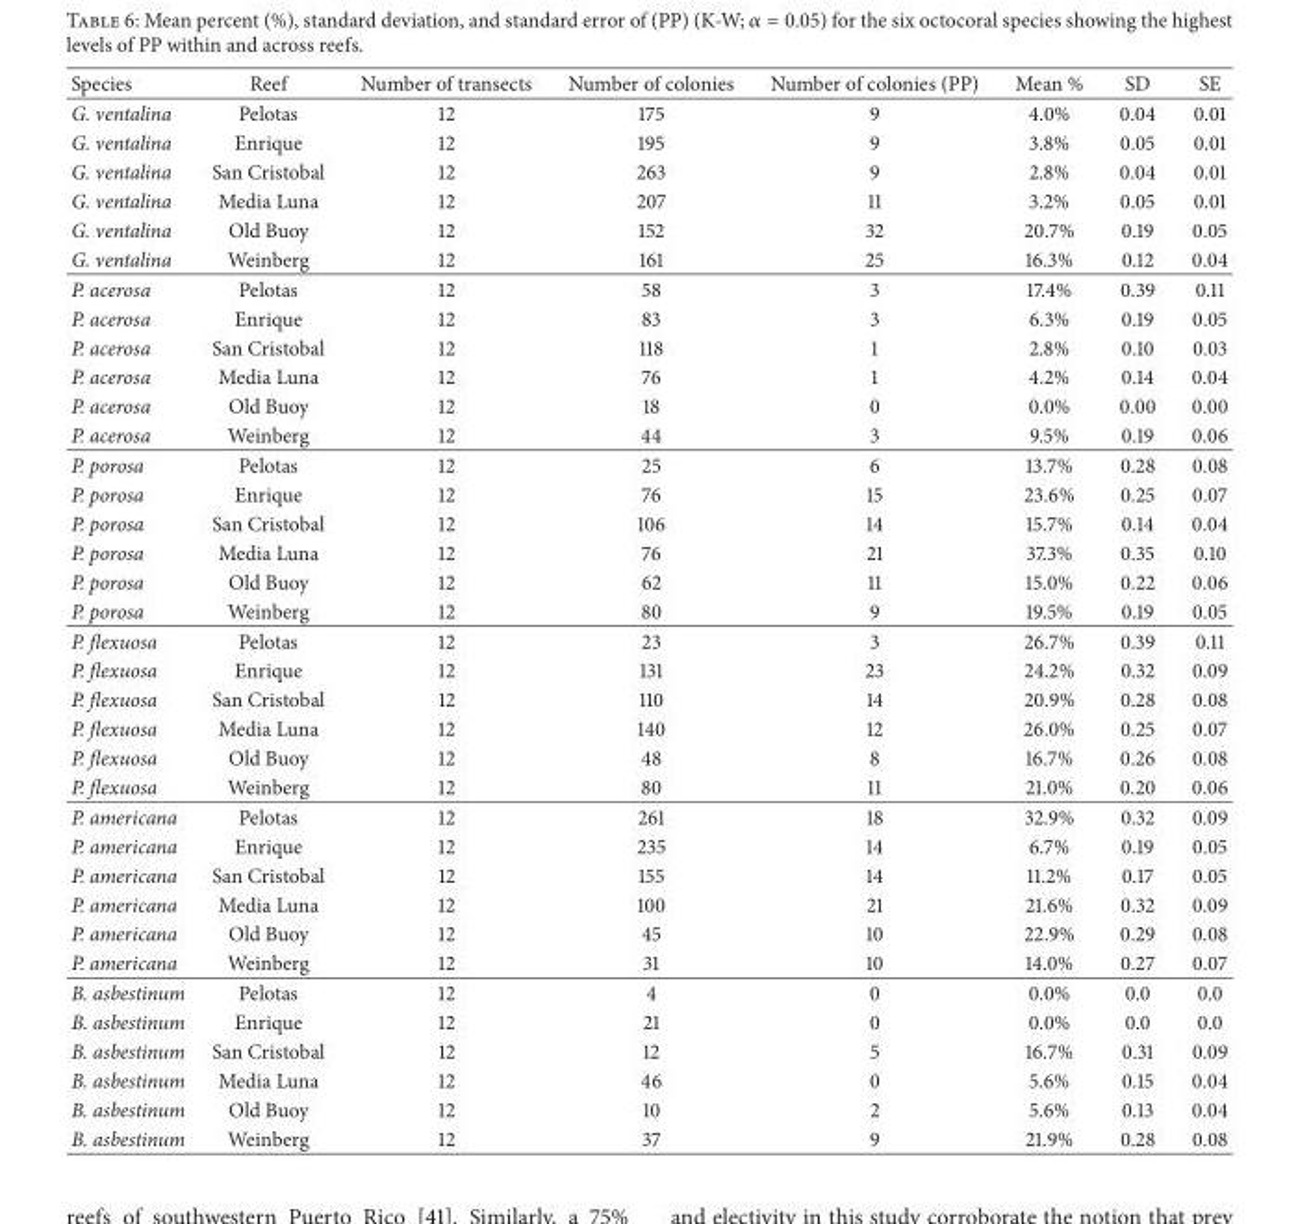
<table><thead><tr><td>Species</td><td>Reef</td><td>Number of transects</td><td>Number of colonies</td><td>Number of colonies (PP)</td><td>Mean %</td><td>SD</td><td>SE</td></tr></thead><tbody><tr><td>G. ventalina</td><td>Pelotas</td><td>12</td><td>175</td><td>9</td><td>4.0%</td><td>0.04</td><td>0.01</td></tr><tr><td>G. ventalina</td><td>Enrique</td><td>12</td><td>195</td><td>9</td><td>3.8%</td><td>0.05</td><td>0.01</td></tr><tr><td>G. ventalina</td><td>San Cristobal</td><td>12</td><td>263</td><td>9</td><td>2.8%</td><td>0.04</td><td>0.01</td></tr><tr><td>G. ventalina</td><td>Media Luna</td><td>12</td><td>207</td><td>11</td><td>3.2%</td><td>0.05</td><td>0.01</td></tr><tr><td>G. ventalina</td><td>Old Buoy</td><td>12</td><td>152</td><td>32</td><td>20.7%</td><td>0.19</td><td>0.05</td></tr><tr><td>G. ventalina</td><td>Weinberg</td><td>12</td><td>161</td><td>25</td><td>16.3%</td><td>0.12</td><td>0.04</td></tr><tr><td>P. acerosa</td><td>Pelotas</td><td>12</td><td>58</td><td>3</td><td>17.4%</td><td>0.39</td><td>0.11</td></tr><tr><td>P. acerosa</td><td>Enrique</td><td>12</td><td>83</td><td>3</td><td>6.3%</td><td>0.19</td><td>0.05</td></tr><tr><td>P. acerosa</td><td>San Cristobal</td><td>12</td><td>118</td><td>1</td><td>2.8%</td><td>0.10</td><td>0.03</td></tr><tr><td>P. acerosa</td><td>Media Luna</td><td>12</td><td>76</td><td>1</td><td>4.2%</td><td>0.14</td><td>0.04</td></tr><tr><td>P. acerosa</td><td>Old Buoy</td><td>12</td><td>18</td><td>0</td><td>0.0%</td><td>0.00</td><td>0.00</td></tr><tr><td>P. acerosa</td><td>Weinberg</td><td>12</td><td>44</td><td>3</td><td>9.5%</td><td>0.19</td><td>0.06</td></tr><tr><td>P. porosa</td><td>Pelotas</td><td>12</td><td>25</td><td>6</td><td>13.7%</td><td>0.28</td><td>0.08</td></tr><tr><td>P. porosa</td><td>Enrique</td><td>12</td><td>76</td><td>15</td><td>23.6%</td><td>0.25</td><td>0.07</td></tr><tr><td>P. porosa</td><td>San Cristobal</td><td>12</td><td>106</td><td>14</td><td>15.7%</td><td>0.14</td><td>0.04</td></tr><tr><td>P. porosa</td><td>Media Luna</td><td>12</td><td>76</td><td>21</td><td>37.3%</td><td>0.35</td><td>0.10</td></tr><tr><td>P. porosa</td><td>Old Buoy</td><td>12</td><td>62</td><td>11</td><td>15.0%</td><td>0.22</td><td>0.06</td></tr><tr><td>P. porosa</td><td>Weinberg</td><td>12</td><td>80</td><td>9</td><td>19.5%</td><td>0.19</td><td>0.05</td></tr><tr><td>P. flexuosa</td><td>Pelotas</td><td>12</td><td>23</td><td>3</td><td>26.7%</td><td>0.39</td><td>0.11</td></tr><tr><td>P. flexuosa</td><td>Enrique</td><td>12</td><td>131</td><td>23</td><td>24.2%</td><td>0.32</td><td>0.09</td></tr><tr><td>P. flexuosa</td><td>San Cristobal</td><td>12</td><td>110</td><td>14</td><td>20.9%</td><td>0.28</td><td>0.08</td></tr><tr><td>P. flexuosa</td><td>Media Luna</td><td>12</td><td>140</td><td>12</td><td>26.0%</td><td>0.25</td><td>0.07</td></tr><tr><td>P. flexuosa</td><td>Old Buoy</td><td>12</td><td>48</td><td>8</td><td>16.7%</td><td>0.26</td><td>0.08</td></tr><tr><td>P. flexuosa</td><td>Weinberg</td><td>12</td><td>80</td><td>11</td><td>21.0%</td><td>0.20</td><td>0.06</td></tr><tr><td>P. americana</td><td>Pelotas</td><td>12</td><td>261</td><td>18</td><td>32.9%</td><td>0.32</td><td>0.09</td></tr><tr><td>P. americana</td><td>Enrique</td><td>12</td><td>235</td><td>14</td><td>6.7%</td><td>0.19</td><td>0.05</td></tr><tr><td>P. americana</td><td>San Cristobal</td><td>12</td><td>155</td><td>14</td><td>11.2%</td><td>0.17</td><td>0.05</td></tr><tr><td>P. americana</td><td>Media Luna</td><td>12</td><td>100</td><td>21</td><td>21.6%</td><td>0.32</td><td>0.09</td></tr><tr><td>P. americana</td><td>Old Buoy</td><td>12</td><td>45</td><td>10</td><td>22.9%</td><td>0.29</td><td>0.08</td></tr><tr><td>P. americana</td><td>Weinberg</td><td>12</td><td>31</td><td>10</td><td>14.0%</td><td>0.27</td><td>0.07</td></tr><tr><td>B. asbestinum</td><td>Pelotas</td><td>12</td><td>4</td><td>0</td><td>0.0%</td><td>0.0</td><td>0.0</td></tr><tr><td>B. asbestinum</td><td>Enrique</td><td>12</td><td>21</td><td>0</td><td>0.0%</td><td>0.0</td><td>0.0</td></tr><tr><td>B. asbestinum</td><td>San Cristobal</td><td>12</td><td>12</td><td>5</td><td>16.7%</td><td>0.31</td><td>0.09</td></tr><tr><td>B. asbestinum</td><td>Media Luna</td><td>12</td><td>46</td><td>0</td><td>5.6%</td><td>0.15</td><td>0.04</td></tr><tr><td>B. asbestinum</td><td>Old Buoy</td><td>12</td><td>10</td><td>2</td><td>5.6%</td><td>0.13</td><td>0.04</td></tr><tr><td>B. asbestinum</td><td>Weinberg</td><td>12</td><td>37</td><td>9</td><td>21.9%</td><td>0.28</td><td>0.08</td></tr></tbody></table>